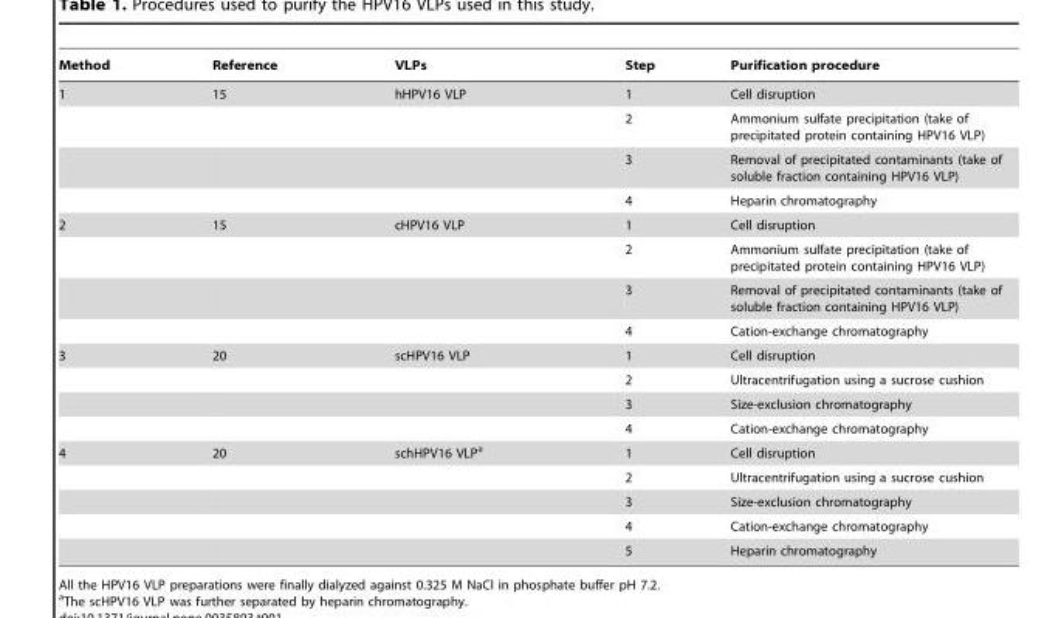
<table><thead><tr><td>Method</td><td>Reference</td><td>VLPs</td><td>Step</td><td>Purification procedure</td></tr></thead><tbody><tr><td rowspan="4">1</td><td>15</td><td>hHPV16 VLP</td><td>1</td><td>Cell disruption</td></tr><tr><td></td><td></td><td>2</td><td>Ammonium sulfate precipitation (take of precipitated protein containing HPV16 VLP)</td></tr><tr><td></td><td></td><td>3</td><td>Removal of precipitated contaminants (take of soluble fraction containing HPV16 VLP)</td></tr><tr><td></td><td></td><td>4</td><td>Heparin chromatography</td></tr><tr><td rowspan="4">2</td><td>15</td><td>cHPV16 VLP</td><td>1</td><td>Cell disruption</td></tr><tr><td></td><td></td><td>2</td><td>Ammonium sulfate precipitation (take of precipitated protein containing HPV16 VLP)</td></tr><tr><td></td><td></td><td>3</td><td>Removal of precipitated contaminants (take of soluble fraction containing HPV16 VLP)</td></tr><tr><td></td><td></td><td>4</td><td>Cation-exchange chromatography</td></tr><tr><td rowspan="4">3</td><td>20</td><td>scHPV16 VLP</td><td>1</td><td>Cell disruption</td></tr><tr><td></td><td></td><td>2</td><td>Ultracentrifugation using a sucrose cushion</td></tr><tr><td></td><td></td><td>3</td><td>Size-exclusion chromatography</td></tr><tr><td></td><td></td><td>4</td><td>Cation-exchange chromatography</td></tr><tr><td rowspan="5">4</td><td>20</td><td>schHPV16 VLP<sup>a</sup></td><td>1</td><td>Cell disruption</td></tr><tr><td></td><td></td><td>2</td><td>Ultracentrifugation using a sucrose cushion</td></tr><tr><td></td><td></td><td>3</td><td>Size-exclusion chromatography</td></tr><tr><td></td><td></td><td>4</td><td>Cation-exchange chromatography</td></tr><tr><td></td><td></td><td>5</td><td>Heparin chromatography</td></tr></tbody></table>